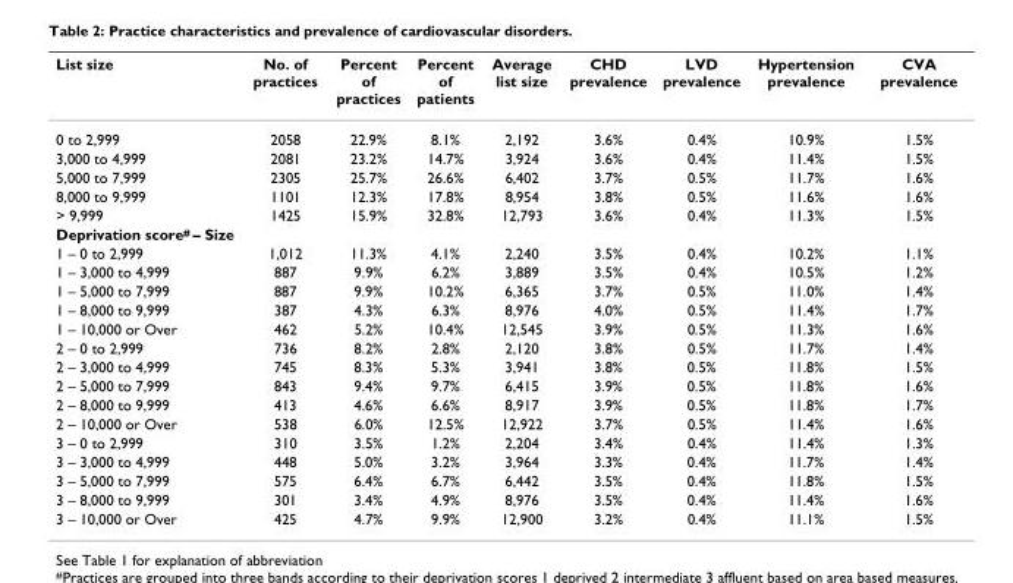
<table><thead><tr><td>List size</td><td>No. of practices</td><td>Percent of practices</td><td>Percent of patients</td><td>Average list size</td><td>CHD prevalence</td><td>LVD prevalence</td><td>Hypertension prevalence</td><td>CVA prevalence</td></tr></thead><tbody><tr><td>0 to 2,999</td><td>2058</td><td>22.9%</td><td>8.1%</td><td>2,192</td><td>3.6%</td><td>0.4%</td><td>10.9%</td><td>1.5%</td></tr><tr><td>3,000 to 4,999</td><td>2081</td><td>23.2%</td><td>14.7%</td><td>3,924</td><td>3.6%</td><td>0.4%</td><td>11.4%</td><td>1.5%</td></tr><tr><td>5,000 to 7,999</td><td>2305</td><td>25.7%</td><td>26.6%</td><td>6,402</td><td>3.7%</td><td>0.5%</td><td>11.7%</td><td>1.6%</td></tr><tr><td>8,000 to 9,999</td><td>1101</td><td>12.3%</td><td>17.8%</td><td>8,954</td><td>3.8%</td><td>0.5%</td><td>11.6%</td><td>1.6%</td></tr><tr><td>&gt; 9,999</td><td>1425</td><td>15.9%</td><td>32.8%</td><td>12,793</td><td>3.6%</td><td>0.4%</td><td>11.3%</td><td>1.5%</td></tr><tr><td colspan="9">Deprivation score<sup>#</sup> – Size</td></tr><tr><td>1 – 0 to 2,999</td><td>1,012</td><td>11.3%</td><td>4.1%</td><td>2,240</td><td>3.5%</td><td>0.4%</td><td>10.2%</td><td>1.1%</td></tr><tr><td>1 – 3,000 to 4,999</td><td>887</td><td>9.9%</td><td>6.2%</td><td>3,889</td><td>3.5%</td><td>0.4%</td><td>10.5%</td><td>1.2%</td></tr><tr><td>1 – 5,000 to 7,999</td><td>887</td><td>9.9%</td><td>10.2%</td><td>6,365</td><td>3.7%</td><td>0.5%</td><td>11.0%</td><td>1.4%</td></tr><tr><td>1 – 8,000 to 9,999</td><td>387</td><td>4.3%</td><td>6.3%</td><td>8,976</td><td>4.0%</td><td>0.5%</td><td>11.4%</td><td>1.7%</td></tr><tr><td>1 – 10,000 or Over</td><td>462</td><td>5.2%</td><td>10.4%</td><td>12,545</td><td>3.9%</td><td>0.5%</td><td>11.3%</td><td>1.6%</td></tr><tr><td>2 – 0 to 2,999</td><td>736</td><td>8.2%</td><td>2.8%</td><td>2,120</td><td>3.8%</td><td>0.5%</td><td>11.7%</td><td>1.4%</td></tr><tr><td>2 – 3,000 to 4,999</td><td>745</td><td>8.3%</td><td>5.3%</td><td>3,941</td><td>3.8%</td><td>0.5%</td><td>11.8%</td><td>1.5%</td></tr><tr><td>2 – 5,000 to 7,999</td><td>843</td><td>9.4%</td><td>9.7%</td><td>6,415</td><td>3.9%</td><td>0.5%</td><td>11.8%</td><td>1.6%</td></tr><tr><td>2 – 8,000 to 9,999</td><td>413</td><td>4.6%</td><td>6.6%</td><td>8,917</td><td>3.9%</td><td>0.5%</td><td>11.8%</td><td>1.7%</td></tr><tr><td>2 – 10,000 or Over</td><td>538</td><td>6.0%</td><td>12.5%</td><td>12,922</td><td>3.7%</td><td>0.5%</td><td>11.4%</td><td>1.6%</td></tr><tr><td>3 – 0 to 2,999</td><td>310</td><td>3.5%</td><td>1.2%</td><td>2,204</td><td>3.4%</td><td>0.4%</td><td>11.4%</td><td>1.3%</td></tr><tr><td>3 – 3,000 to 4,999</td><td>448</td><td>5.0%</td><td>3.2%</td><td>3,964</td><td>3.3%</td><td>0.4%</td><td>11.7%</td><td>1.4%</td></tr><tr><td>3 – 5,000 to 7,999</td><td>575</td><td>6.4%</td><td>6.7%</td><td>6,442</td><td>3.5%</td><td>0.4%</td><td>11.8%</td><td>1.5%</td></tr><tr><td>3 – 8,000 to 9,999</td><td>301</td><td>3.4%</td><td>4.9%</td><td>8,976</td><td>3.5%</td><td>0.4%</td><td>11.4%</td><td>1.6%</td></tr><tr><td>3 – 10,000 or Over</td><td>425</td><td>4.7%</td><td>9.9%</td><td>12,900</td><td>3.2%</td><td>0.4%</td><td>11.1%</td><td>1.5%</td></tr></tbody></table>